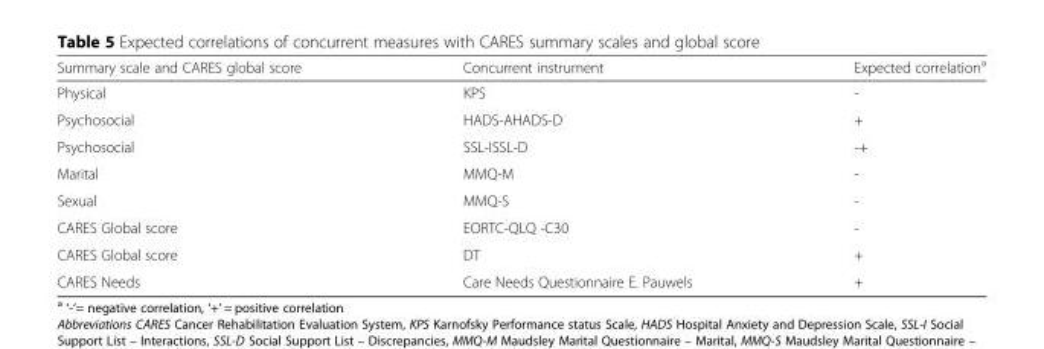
<table><thead><tr><td>Summary scale and CARES global score</td><td>Concurrent instrument</td><td>Expected correlation<sup>a</sup></td></tr></thead><tbody><tr><td>Physical</td><td>KPS</td><td>-</td></tr><tr><td>Psychosocial</td><td>HADS-AHADS-D</td><td>+</td></tr><tr><td>Psychosocial</td><td>SSL-ISSL-D</td><td>-+</td></tr><tr><td>Marital</td><td>MMQ-M</td><td>-</td></tr><tr><td>Sexual</td><td>MMQ-S</td><td>-</td></tr><tr><td>CARES Global score</td><td>EORTC-QLQ -C30</td><td>-</td></tr><tr><td>CARES Global score</td><td>DT</td><td>+</td></tr><tr><td>CARES Needs</td><td>Care Needs Questionnaire E. Pauwels</td><td>+</td></tr></tbody></table>